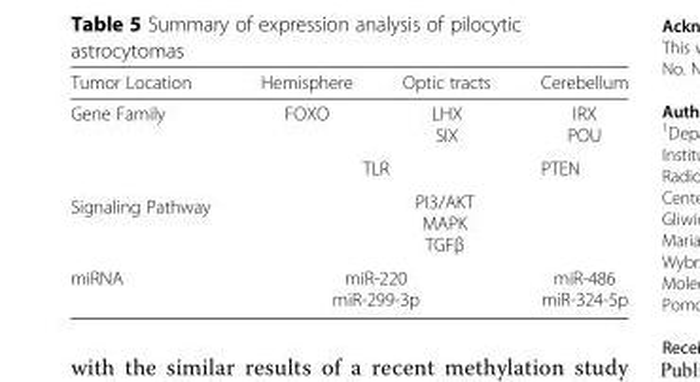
<table><thead><tr><td>Tumor Location</td><td>Hemisphere</td><td>Optic tracts</td><td>Cerebellum</td></tr></thead><tbody><tr><td>Gene Family</td><td>FOXO</td><td>LHX SIX</td><td>IRX POU</td></tr><tr><td rowspan="2">Signaling Pathway</td><td colspan="2">TLR</td><td>PTEN</td></tr><tr><td colspan="3">PI3/AKT MAPK TGFβ</td></tr><tr><td>miRNA</td><td colspan="2">miR-220 miR-299-3p</td><td>miR-486 miR-324-5p</td></tr></tbody></table>